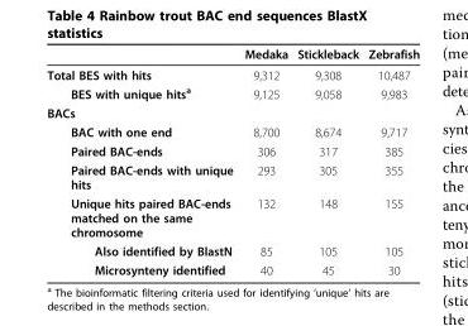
<table><thead><tr><td></td><td>Medaka</td><td>Stickleback</td><td>Zebrafish</td></tr></thead><tbody><tr><td>Total BES with hits</td><td>9,312</td><td>9,308</td><td>10,487</td></tr><tr><td>BES with unique hits<sup>a</sup></td><td>9,125</td><td>9,058</td><td>9,983</td></tr><tr><td colspan="4">BACs</td></tr><tr><td>BAC with one end</td><td>8,700</td><td>8,674</td><td>9,717</td></tr><tr><td>Paired BAC-ends</td><td>306</td><td>317</td><td>385</td></tr><tr><td>Paired BAC-ends with unique hits</td><td>293</td><td>305</td><td>355</td></tr><tr><td>Unique hits paired BAC-ends matched on the same chromosome</td><td>132</td><td>148</td><td>155</td></tr><tr><td>Also identified by BlastN</td><td>85</td><td>105</td><td>105</td></tr><tr><td>Microsynteny identified</td><td>40</td><td>45</td><td>30</td></tr></tbody></table>